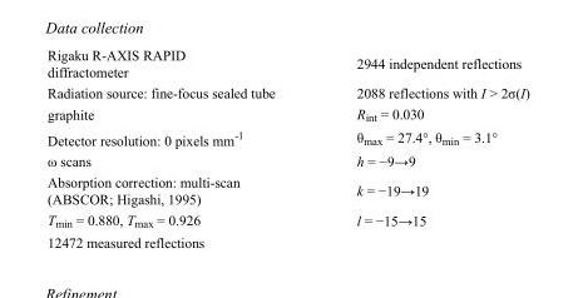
<table><tbody><tr><td>Rigaku R-AXIS RAPID diffractometer</td><td>2944 independent reflections</td></tr><tr><td>Radiation source: fine-focus sealed tube</td><td>2088 reflections with I &gt; 2σ(I)</td></tr><tr><td>graphite</td><td>R<sub>int</sub> = 0.030</td></tr><tr><td>Detector resolution: 0 pixels mm<sup>-1</sup></td><td>θ<sub>max</sub> = 27.4°, θ<sub>min</sub> = 3.1°</td></tr><tr><td>ω scans</td><td>h = −9→9</td></tr><tr><td>Absorption correction: multi-scan (ABSCOR; Higashi, 1995)</td><td>k = −19→19</td></tr><tr><td>T<sub>min</sub> = 0.880, T<sub>max</sub> = 0.926</td><td>l = −15→15</td></tr><tr><td>12472 measured reflections</td><td></td></tr></tbody></table>